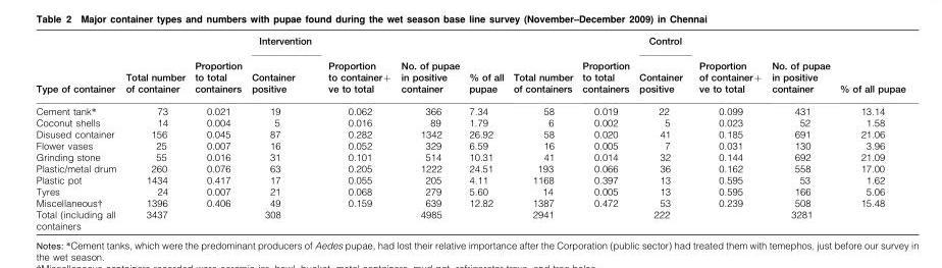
<table><thead><tr><td rowspan="2">Type of container</td><td rowspan="2">Total number of container</td><td rowspan="2">Proportion to total containers</td><td rowspan="2">Intervention Container positive</td><td rowspan="2">Proportion to container+ ve to total</td><td rowspan="2">No. of pupae in positive container</td><td rowspan="2">% of all pupae</td><td rowspan="2">Total number of containers</td><td rowspan="2">Proportion to total containers</td><td rowspan="2">Control Container positive</td><td rowspan="2">Proportion of container+ ve to total</td><td rowspan="2">No. of pupae in positive container</td><td rowspan="2">% of all pupae</td></tr><tr></tr></thead><tbody><tr><td>Cement tank*</td><td>73</td><td>0.021</td><td>19</td><td>0.062</td><td>366</td><td>7.34</td><td>58</td><td>0.019</td><td>22</td><td>0.099</td><td>431</td><td>13.14</td></tr><tr><td>Coconut shells</td><td>14</td><td>0.004</td><td>5</td><td>0.016</td><td>89</td><td>1.79</td><td>6</td><td>0.002</td><td>5</td><td>0.023</td><td>52</td><td>1.58</td></tr><tr><td>Disused container</td><td>156</td><td>0.045</td><td>87</td><td>0.282</td><td>1342</td><td>26.92</td><td>58</td><td>0.020</td><td>41</td><td>0.185</td><td>691</td><td>21.06</td></tr><tr><td>Flower vases</td><td>25</td><td>0.007</td><td>16</td><td>0.052</td><td>329</td><td>6.59</td><td>16</td><td>0.005</td><td>7</td><td>0.031</td><td>130</td><td>3.96</td></tr><tr><td>Grinding stone</td><td>55</td><td>0.016</td><td>31</td><td>0.101</td><td>514</td><td>10.31</td><td>41</td><td>0.014</td><td>32</td><td>0.144</td><td>692</td><td>21.09</td></tr><tr><td>Plastic/metal drum</td><td>260</td><td>0.076</td><td>63</td><td>0.205</td><td>1222</td><td>24.51</td><td>193</td><td>0.066</td><td>36</td><td>0.162</td><td>558</td><td>17.00</td></tr><tr><td>Plastic pot</td><td>1434</td><td>0.417</td><td>17</td><td>0.055</td><td>205</td><td>4.11</td><td>1168</td><td>0.397</td><td>13</td><td>0.595</td><td>53</td><td>1.62</td></tr><tr><td>Tyres</td><td>24</td><td>0.007</td><td>21</td><td>0.068</td><td>279</td><td>5.60</td><td>14</td><td>0.005</td><td>13</td><td>0.595</td><td>166</td><td>5.06</td></tr><tr><td>Miscellaneous†</td><td>1396</td><td>0.406</td><td>49</td><td>0.159</td><td>639</td><td>12.82</td><td>1387</td><td>0.472</td><td>53</td><td>0.239</td><td>508</td><td>15.48</td></tr><tr><td>Total (including all containers</td><td>3437</td><td></td><td>308</td><td></td><td>4985</td><td></td><td>2941</td><td></td><td>222</td><td></td><td>3281</td><td></td></tr></tbody></table>